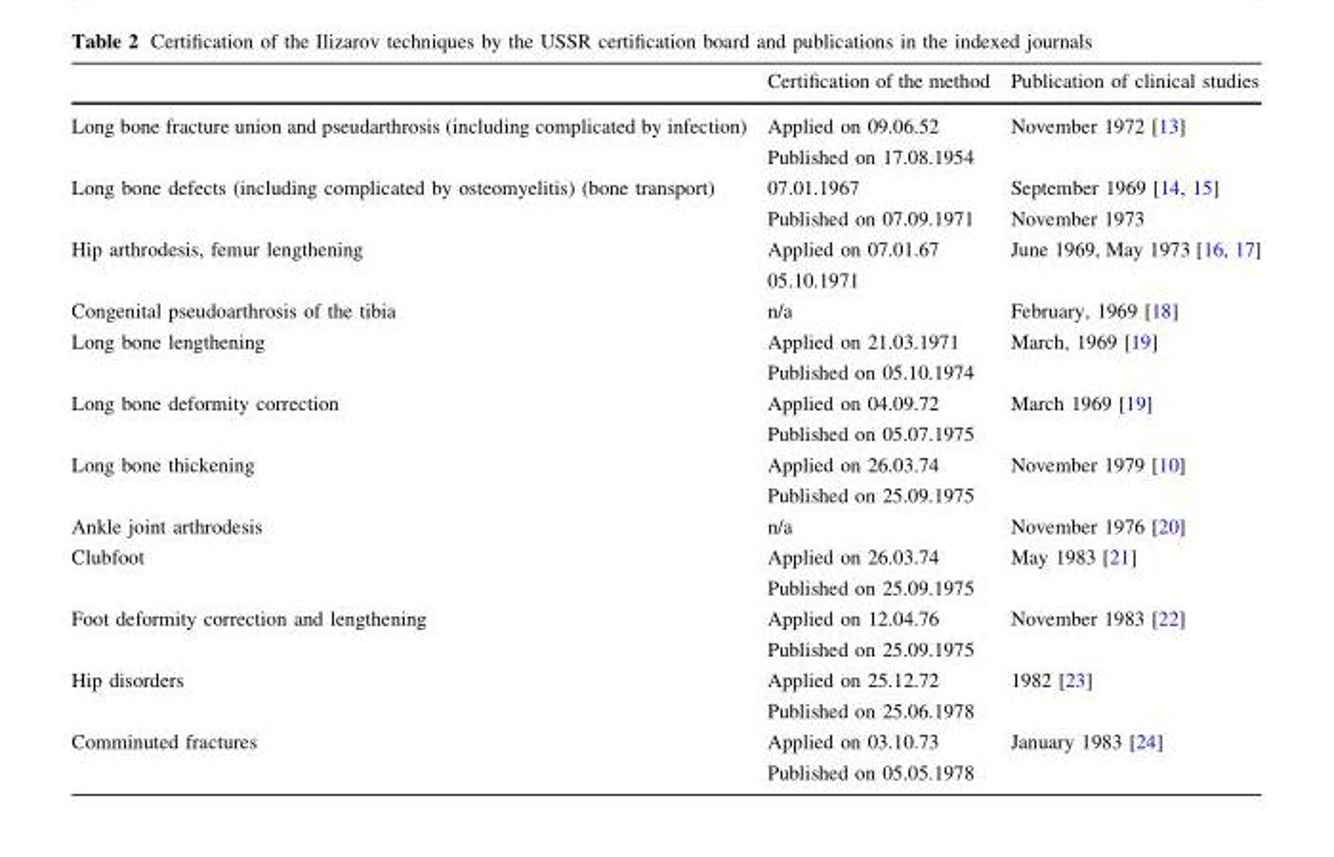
<table><thead><tr><td></td><td>Certification of the method</td><td>Publication of clinical studies</td></tr></thead><tbody><tr><td>Long bone fracture union and pseudarthrosis (including complicated by infection)</td><td>Applied on 09.06.52 Published on 17.08.1954</td><td>November 1972 [13]</td></tr><tr><td>Long bone defects (including complicated by osteomyelitis) (bone transport)</td><td>07.01.1967 Published on 07.09.1971</td><td>September 1969 [14, 15] November 1973</td></tr><tr><td>Hip arthrodesis, femur lengthening</td><td>Applied on 07.01.67 05.10.1971</td><td>June 1969, May 1973 [16, 17]</td></tr><tr><td>Congenital pseudoarthrosis of the tibia</td><td>n/a</td><td>February, 1969 [18]</td></tr><tr><td>Long bone lengthening</td><td>Applied on 21.03.1971 Published on 05.10.1974</td><td>March, 1969 [19]</td></tr><tr><td>Long bone deformity correction</td><td>Applied on 04.09.72 Published on 05.07.1975</td><td>March 1969 [19]</td></tr><tr><td>Long bone thickening</td><td>Applied on 26.03.74 Published on 25.09.1975</td><td>November 1979 [10]</td></tr><tr><td>Ankle joint arthrodesis</td><td>n/a</td><td>November 1976 [20]</td></tr><tr><td>Clubfoot</td><td>Applied on 26.03.74 Published on 25.09.1975</td><td>May 1983 [21]</td></tr><tr><td>Foot deformity correction and lengthening</td><td>Applied on 12.04.76 Published on 25.09.1975</td><td>November 1983 [22]</td></tr><tr><td>Hip disorders</td><td>Applied on 25.12.72 Published on 25.06.1978</td><td>1982 [23]</td></tr><tr><td>Comminuted fractures</td><td>Applied on 03.10.73 Published on 05.05.1978</td><td>January 1983 [24]</td></tr></tbody></table>